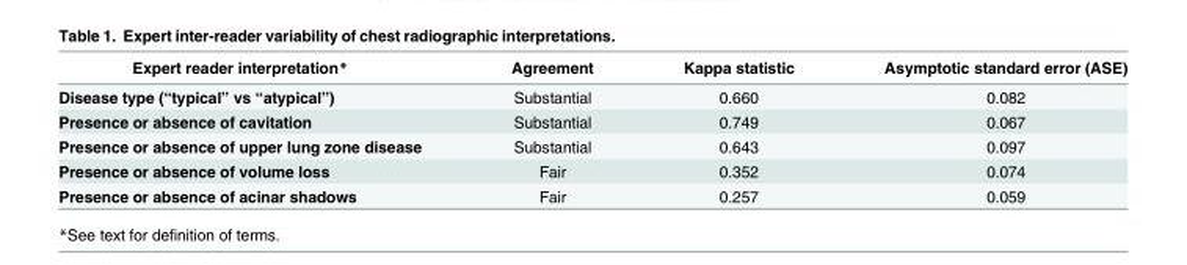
<table><thead><tr><td>Expert reader interpretation*</td><td>Agreement</td><td>Kappa statistic</td><td>Asymptotic standard error (ASE)</td></tr></thead><tbody><tr><td>Disease type (“typical” vs “atypical”)</td><td>Substantial</td><td>0.660</td><td>0.082</td></tr><tr><td>Presence or absence of cavitation</td><td>Substantial</td><td>0.749</td><td>0.067</td></tr><tr><td>Presence or absence of upper lung zone disease</td><td>Substantial</td><td>0.643</td><td>0.097</td></tr><tr><td>Presence or absence of volume loss</td><td>Fair</td><td>0.352</td><td>0.074</td></tr><tr><td>Presence or absence of acinar shadows</td><td>Fair</td><td>0.257</td><td>0.059</td></tr></tbody></table>